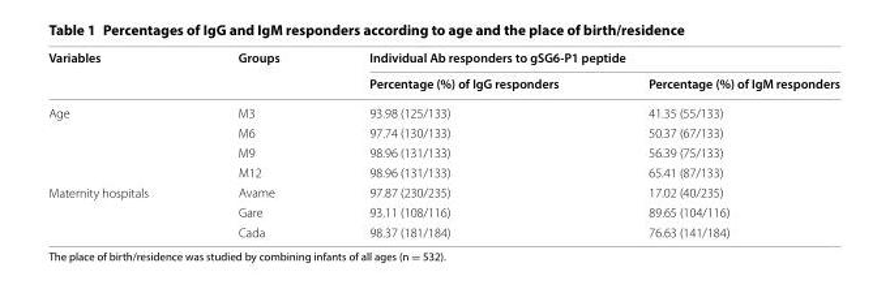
<table><thead><tr><td rowspan="2">Variables</td><td rowspan="2">Groups</td><td colspan="2">Individual Ab responders to gSG6‑P1 peptide</td></tr><tr><td>Percentage (%) of IgG responders</td><td>Percentage (%) of IgM responders</td></tr></thead><tbody><tr><td rowspan="4">Age</td><td>M3</td><td>93.98 (125/133)</td><td>41.35 (55/133)</td></tr><tr><td>M6</td><td>97.74 (130/133)</td><td>50.37 (67/133)</td></tr><tr><td>M9</td><td>98.96 (131/133)</td><td>56.39 (75/133)</td></tr><tr><td>M12</td><td>98.96 (131/133)</td><td>65.41 (87/133)</td></tr><tr><td rowspan="3">Maternity hospitals</td><td>Avame</td><td>97.87 (230/235)</td><td>17.02 (40/235)</td></tr><tr><td>Gare</td><td>93.11 (108/116)</td><td>89.65 (104/116)</td></tr><tr><td>Cada</td><td>98.37 (181/184)</td><td>76.63 (141/184)</td></tr></tbody></table>